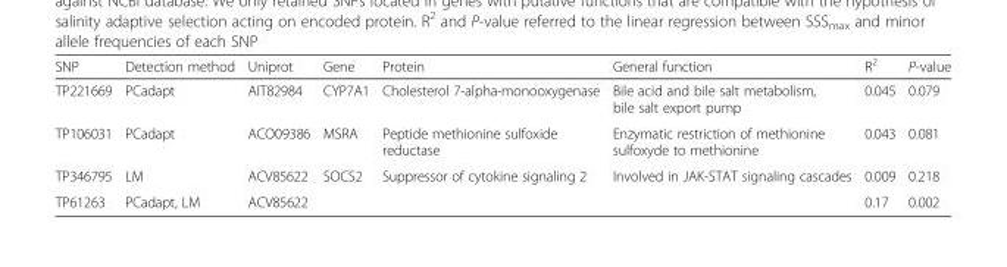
<table><thead><tr><td>SNP</td><td>Detection method</td><td>Uniprot</td><td>Gene</td><td>Protein</td><td>General function</td><td>R<sup>2</sup></td><td>P-value</td></tr></thead><tbody><tr><td>TP221669</td><td>PCadapt</td><td>AIT82984</td><td>CYP7A1</td><td>Cholesterol 7-alpha-monooxygenase</td><td>Bile acid and bile salt metabolism, bile salt export pump</td><td>0.045</td><td>0.079</td></tr><tr><td>TP106031</td><td>PCadapt</td><td>ACO09386</td><td>MSRA</td><td>Peptide methionine sulfoxide reductase</td><td>Enzymatic restriction of methionine sulfoxyde to methionine</td><td>0.043</td><td>0.081</td></tr><tr><td>TP346795</td><td>LM</td><td>ACV85622</td><td rowspan="2">SOCS2</td><td rowspan="2">Suppressor of cytokine signaling 2</td><td rowspan="2">Involved in JAK-STAT signaling cascades</td><td>0.009</td><td>0.218</td></tr><tr><td>TP61263</td><td>PCadapt, LM</td><td>ACV85622</td><td>0.17</td><td>0.002</td></tr></tbody></table>